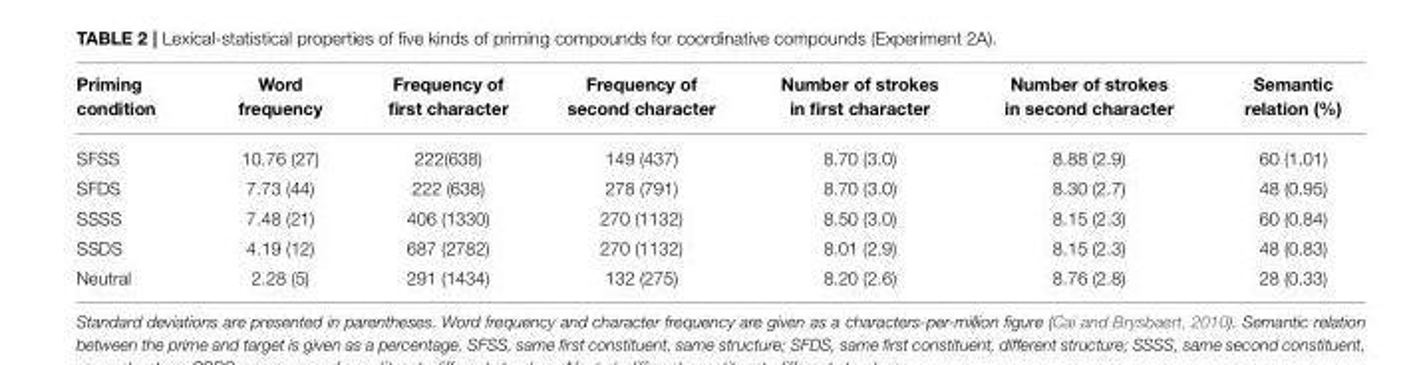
<table><thead><tr><td>Priming condition</td><td>Word frequency</td><td>Frequency of first character</td><td>Frequency of second character</td><td>Number of strokes in first character</td><td>Number of strokes in second character</td><td>Semantic relation (%)</td></tr></thead><tbody><tr><td>SFSS</td><td>10.76 (27)</td><td>222(638)</td><td>149 (437)</td><td>8.70 (3.0)</td><td>8.88 (2.9)</td><td>60 (1.01)</td></tr><tr><td>SFDS</td><td>7.73 (44)</td><td>222 (638)</td><td>278 (791)</td><td>8.70 (3.0)</td><td>8.30 (2.7)</td><td>48 (0.95)</td></tr><tr><td>SSSS</td><td>7.48 (21)</td><td>406 (1330)</td><td>270 (1132)</td><td>8.50 (3.0)</td><td>8.15 (2.3)</td><td>60 (0.84)</td></tr><tr><td>SSDS</td><td>4.19 (12)</td><td>687 (2782)</td><td>270 (1132)</td><td>8.01 (2.9)</td><td>8.15 (2.3)</td><td>48 (0.83)</td></tr><tr><td>Neutral</td><td>2.28 (5)</td><td>291 (1434)</td><td>132 (275)</td><td>8.20 (2.6)</td><td>8.76 (2.8)</td><td>28 (0.33)</td></tr></tbody></table>